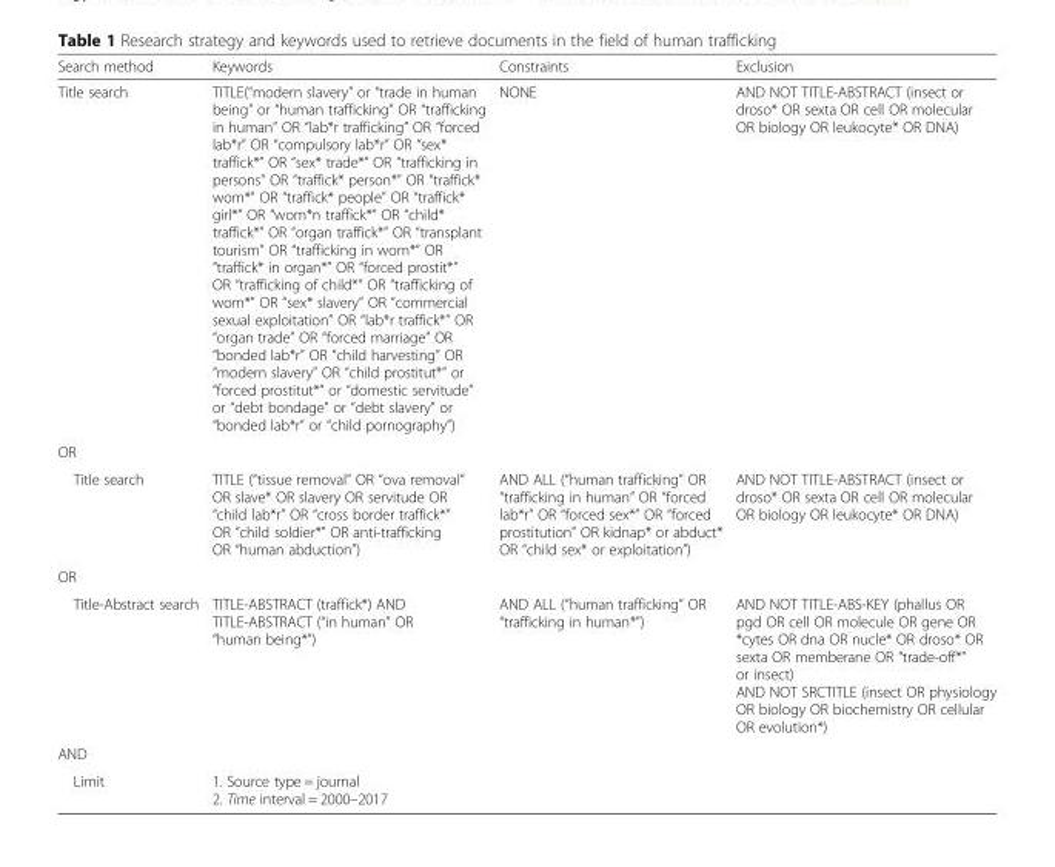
<table><thead><tr><td>Search method</td><td>Keywords</td><td>Constraints</td><td>Exclusion</td></tr></thead><tbody><tr><td>Title search</td><td>TITLE(“modern slavery” or “trade in human being” or “human trafficking” OR “trafficking in human” OR “lab*r trafficking” OR “forced lab*r” OR “compulsory lab*r” OR “sex* traffick*” OR “sex* trade*” OR “trafficking in persons” OR “traffick* person*” OR “traffick* wom*” OR “traffick* people” OR “traffick* girl*” OR “wom*n traffick*” OR “child* traffick*” OR “organ traffick*” OR “transplant tourism” OR “trafficking in wom*” OR “traffick* in organ*” OR “forced prostit*” OR “trafficking of child*” OR “trafficking of wom*” OR “sex* slavery” OR “commercial sexual exploitation” OR “lab*r traffick*” OR “organ trade” OR “forced marriage” OR “bonded lab*r” OR “child harvesting” OR “modern slavery” OR “child prostitut*” or “forced prostitut*” or “domestic servitude” or “debt bondage” or “debt slavery” or “bonded lab*r” or “child pornography”)</td><td>NONE</td><td>AND NOT TITLE-ABSTRACT (insect or droso* OR sexta OR cell OR molecular OR biology OR leukocyte* OR DNA)</td></tr><tr><td colspan="4">OR</td></tr><tr><td>Title search</td><td>TITLE (“tissue removal” OR “ova removal” OR slave* OR slavery OR servitude OR “child lab*r” OR “cross border traffick*” OR “child soldier*” OR anti-trafficking OR “human abduction”)</td><td>AND ALL (“human trafficking” OR “trafficking in human” OR “forced lab*r” OR “forced sex*” OR “forced prostitution” OR kidnap* or abduct* OR “child sex* or exploitation”)</td><td>AND NOT TITLE-ABSTRACT (insect or droso* OR sexta OR cell OR molecular OR biology OR leukocyte* OR DNA)</td></tr><tr><td colspan="4">OR</td></tr><tr><td>Title-Abstract search</td><td>TITLE-ABSTRACT (traffick*) AND TITLE-ABSTRACT (“in human” OR “human being*”)</td><td>AND ALL (“human trafficking” OR “trafficking in human*”)</td><td>AND NOT TITLE-ABS-KEY (phallus OR pgd OR cell OR molecule OR gene OR *cytes OR dna OR nucle* OR droso* OR sexta OR memberane OR “trade-off*” or insect) AND NOT SRCTITLE (insect OR physiology OR biology OR biochemistry OR cellular OR evolution*)</td></tr><tr><td colspan="4">AND</td></tr><tr><td>Limit</td><td colspan="3">1. Source type = journal 2. Time interval = 2000–2017</td></tr></tbody></table>